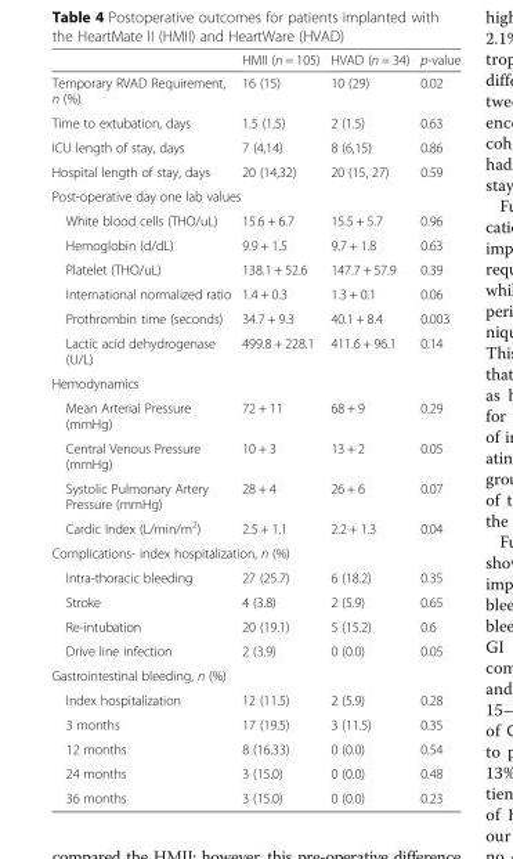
<table><thead><tr><td></td><td>HMII (n = 105)</td><td>HVAD (n = 34)</td><td>p-value</td></tr></thead><tbody><tr><td>Temporary RVAD Requirement, n (%)</td><td>16 (15)</td><td>10 (29)</td><td>0.02</td></tr><tr><td>Time to extubation, days</td><td>1.5 (1,5)</td><td>2 (1.5)</td><td>0.63</td></tr><tr><td>ICU length of stay, days</td><td>7 (4,14)</td><td>8 (6,15)</td><td>0.86</td></tr><tr><td>Hospital length of stay, days</td><td>20 (14,32)</td><td>20 (15, 27)</td><td>0.59</td></tr><tr><td colspan="4">Post-operative day one lab values</td></tr><tr><td>White blood cells (THO/uL)</td><td>15.6 + 6.7</td><td>15.5 + 5.7</td><td>0.96</td></tr><tr><td>Hemoglobin (d/dL)</td><td>9.9 + 1.5</td><td>9.7 + 1.8</td><td>0.63</td></tr><tr><td>Platelet (THO/uL)</td><td>138.1 + 52.6</td><td>147.7 + 57.9</td><td>0.39</td></tr><tr><td>International normalized ratio</td><td>1.4 + 0.3</td><td>1.3 + 0.1</td><td>0.06</td></tr><tr><td>Prothrombin time (seconds)</td><td>34.7 + 9.3</td><td>40.1 + 8.4</td><td>0.003</td></tr><tr><td>Lactic acid dehydrogenase (U/L)</td><td>499.8 + 228.1</td><td>411.6 + 96.1</td><td>0.14</td></tr><tr><td colspan="4">Hemodynamics</td></tr><tr><td>Mean Arterial Pressure (mmHg)</td><td>72 + 11</td><td>68 + 9</td><td>0.29</td></tr><tr><td>Central Venous Pressure (mmHg)</td><td>10 + 3</td><td>13 + 2</td><td>0.05</td></tr><tr><td>Systolic Pulmonary Artery Pressure (mmHg)</td><td>28 + 4</td><td>26 + 6</td><td>0.07</td></tr><tr><td>Cardic Index (L/min/m<sup>2</sup>)</td><td>2.5 + 1.1</td><td>2.2 + 1.3</td><td>0.04</td></tr><tr><td colspan="4">Complications- index hospitalization, n (%)</td></tr><tr><td>Intra-thoracic bleeding</td><td>27 (25.7)</td><td>6 (18.2)</td><td>0.35</td></tr><tr><td>Stroke</td><td>4 (3.8)</td><td>2 (5.9)</td><td>0.65</td></tr><tr><td>Re-intubation</td><td>20 (19.1)</td><td>5 (15.2)</td><td>0.6</td></tr><tr><td>Drive line infection</td><td>2 (3.9)</td><td>0 (0.0)</td><td>0.05</td></tr><tr><td colspan="4">Gastrointestinal bleeding, n (%)</td></tr><tr><td>Index hospitalization</td><td>12 (11.5)</td><td>2 (5.9)</td><td>0.28</td></tr><tr><td>3 months</td><td>17 (19.5)</td><td>3 (11.5)</td><td>0.35</td></tr><tr><td>12 months</td><td>8 (16.33)</td><td>0 (0.0)</td><td>0.54</td></tr><tr><td>24 months</td><td>3 (15.0)</td><td>0 (0.0)</td><td>0.48</td></tr><tr><td>36 months</td><td>3 (15.0)</td><td>0 (0.0)</td><td>0.23</td></tr></tbody></table>